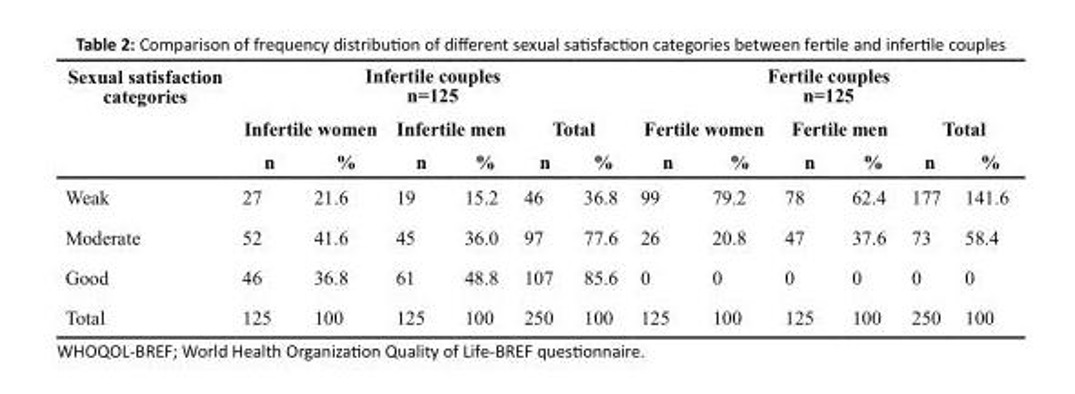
<table><thead><tr><td rowspan="3">Sexual satisfaction categories</td><td colspan="6">Infertile couples n=125</td><td colspan="6">Fertile couples n=125</td></tr><tr><td colspan="2">Infertile women</td><td colspan="2">Infertile men</td><td colspan="2">Total</td><td colspan="2">Fertile women</td><td colspan="2">Fertile men</td><td colspan="2">Total</td></tr><tr><td>n</td><td>%</td><td>n</td><td>%</td><td>n</td><td>%</td><td>n</td><td>%</td><td>n</td><td>%</td><td>n</td><td>%</td></tr></thead><tbody><tr><td>Weak</td><td>27</td><td>21.6</td><td>19</td><td>15.2</td><td>46</td><td>36.8</td><td>99</td><td>79.2</td><td>78</td><td>62.4</td><td>177</td><td>141.6</td></tr><tr><td>Moderate</td><td>52</td><td>41.6</td><td>45</td><td>36.0</td><td>97</td><td>77.6</td><td>26</td><td>20.8</td><td>47</td><td>37.6</td><td>73</td><td>58.4</td></tr><tr><td>Good</td><td>46</td><td>36.8</td><td>61</td><td>48.8</td><td>107</td><td>85.6</td><td>0</td><td>0</td><td>0</td><td>0</td><td>0</td><td>0</td></tr><tr><td>Total</td><td>125</td><td>100</td><td>125</td><td>100</td><td>250</td><td>100</td><td>125</td><td>100</td><td>125</td><td>100</td><td>250</td><td>100</td></tr></tbody></table>